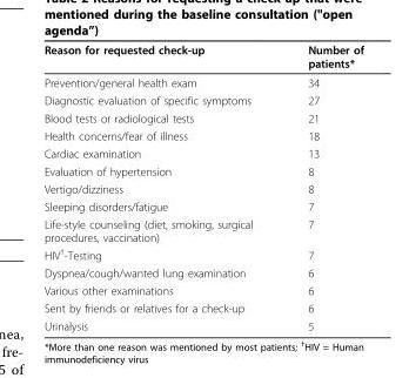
<table><thead><tr><td>Reason for requested check-up</td><td>Number of patients*</td></tr></thead><tbody><tr><td>Prevention/general health exam</td><td>34</td></tr><tr><td>Diagnostic evaluation of specific symptoms</td><td>27</td></tr><tr><td>Blood tests or radiological tests</td><td>21</td></tr><tr><td>Health concerns/fear of illness</td><td>18</td></tr><tr><td>Cardiac examination</td><td>13</td></tr><tr><td>Evaluation of hypertension</td><td>8</td></tr><tr><td>Vertigo/dizziness</td><td>8</td></tr><tr><td>Sleeping disorders/fatigue</td><td>7</td></tr><tr><td>Life-style counseling (diet, smoking, surgical procedures, vaccination)</td><td>7</td></tr><tr><td>HIV<sup>†</sup>-Testing</td><td>7</td></tr><tr><td>Dyspnea/cough/wanted lung examination</td><td>6</td></tr><tr><td>Various other examinations</td><td>6</td></tr><tr><td>Sent by friends or relatives for a check-up</td><td>6</td></tr><tr><td>Urinalysis</td><td>5</td></tr></tbody></table>